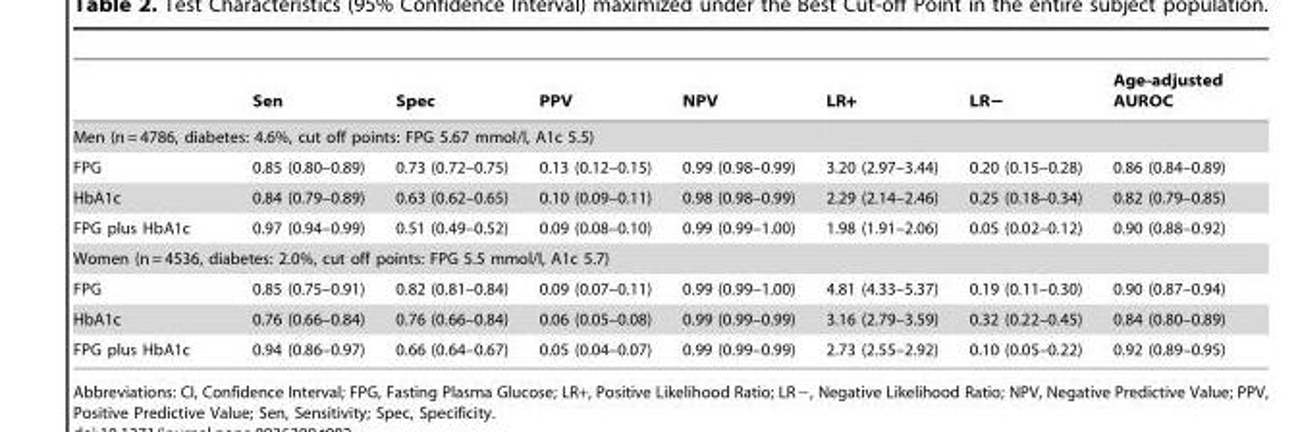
<table><thead><tr><td></td><td>Sen</td><td>Spec</td><td>PPV</td><td>NPV</td><td>LR+</td><td>LR−</td><td>Age-adjusted AUROC</td></tr></thead><tbody><tr><td colspan="8">Men (n = 4786, diabetes: 4.6%, cut off points: FPG 5.67 mmol/l, A1c 5.5)</td></tr><tr><td>FPG</td><td>0.85 (0.80–0.89)</td><td>0.73 (0.72–0.75)</td><td>0.13 (0.12–0.15)</td><td>0.99 (0.98–0.99)</td><td>3.20 (2.97–3.44)</td><td>0.20 (0.15–0.28)</td><td>0.86 (0.84–0.89)</td></tr><tr><td>HbA1c</td><td>0.84 (0.79–0.89)</td><td>0.63 (0.62–0.65)</td><td>0.10 (0.09–0.11)</td><td>0.98 (0.98–0.99)</td><td>2.29 (2.14–2.46)</td><td>0.25 (0.18–0.34)</td><td>0.82 (0.79–0.85)</td></tr><tr><td>FPG plus HbA1c</td><td>0.97 (0.94–0.99)</td><td>0.51 (0.49–0.52)</td><td>0.09 (0.08–0.10)</td><td>0.99 (0.99–1.00)</td><td>1.98 (1.91–2.06)</td><td>0.05 (0.02–0.12)</td><td>0.90 (0.88–0.92)</td></tr><tr><td colspan="8">Women (n = 4536, diabetes: 2.0%, cut off points: FPG 5.5 mmol/l, A1c 5.7)</td></tr><tr><td>FPG</td><td>0.85 (0.75–0.91)</td><td>0.82 (0.81–0.84)</td><td>0.09 (0.07–0.11)</td><td>0.99 (0.99–1.00)</td><td>4.81 (4.33–5.37)</td><td>0.19 (0.11–0.30)</td><td>0.90 (0.87–0.94)</td></tr><tr><td>HbA1c</td><td>0.76 (0.66–0.84)</td><td>0.76 (0.66–0.84)</td><td>0.06 (0.05–0.08)</td><td>0.99 (0.99–0.99)</td><td>3.16 (2.79–3.59)</td><td>0.32 (0.22–0.45)</td><td>0.84 (0.80–0.89)</td></tr><tr><td>FPG plus HbA1c</td><td>0.94 (0.86–0.97)</td><td>0.66 (0.64–0.67)</td><td>0.05 (0.04–0.07)</td><td>0.99 (0.99–0.99)</td><td>2.73 (2.55–2.92)</td><td>0.10 (0.05–0.22)</td><td>0.92 (0.89–0.95)</td></tr></tbody></table>